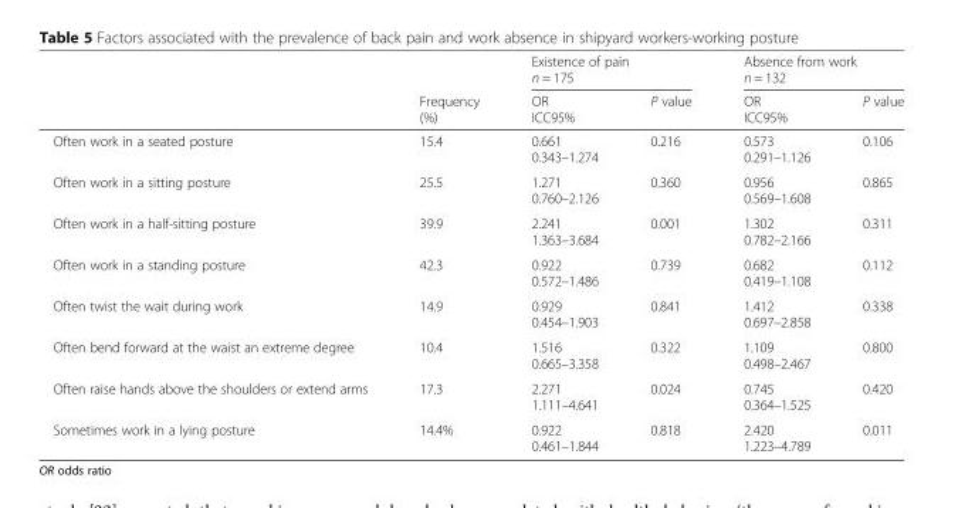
<table><thead><tr><td rowspan="2"></td><td rowspan="2">Frequency (%)</td><td colspan="2">Existence of pain n = 175</td><td colspan="2">Absence from work n = 132</td></tr><tr><td>OR ICC95%</td><td>P value</td><td>OR ICC95%</td><td>P value</td></tr></thead><tbody><tr><td>Often work in a seated posture</td><td>15.4</td><td>0.661 0.343–1.274</td><td>0.216</td><td>0.573 0.291–1.126</td><td>0.106</td></tr><tr><td>Often work in a sitting posture</td><td>25.5</td><td>1.271 0.760–2.126</td><td>0.360</td><td>0.956 0.569–1.608</td><td>0.865</td></tr><tr><td>Often work in a half-sitting posture</td><td>39.9</td><td>2.241 1.363–3.684</td><td>0.001</td><td>1.302 0.782–2.166</td><td>0.311</td></tr><tr><td>Often work in a standing posture</td><td>42.3</td><td>0.922 0.572–1.486</td><td>0.739</td><td>0.682 0.419–1.108</td><td>0.112</td></tr><tr><td>Often twist the wait during work</td><td>14.9</td><td>0.929 0.454–1.903</td><td>0.841</td><td>1.412 0.697–2.858</td><td>0.338</td></tr><tr><td>Often bend forward at the waist an extreme degree</td><td>10.4</td><td>1.516 0.665–3.358</td><td>0.322</td><td>1.109 0.498–2.467</td><td>0.800</td></tr><tr><td>Often raise hands above the shoulders or extend arms</td><td>17.3</td><td>2.271 1.111–4.641</td><td>0.024</td><td>0.745 0.364–1.525</td><td>0.420</td></tr><tr><td>Sometimes work in a lying posture</td><td>14.4%</td><td>0.922 0.461–1.844</td><td>0.818</td><td>2.420 1.223–4.789</td><td>0.011</td></tr></tbody></table>